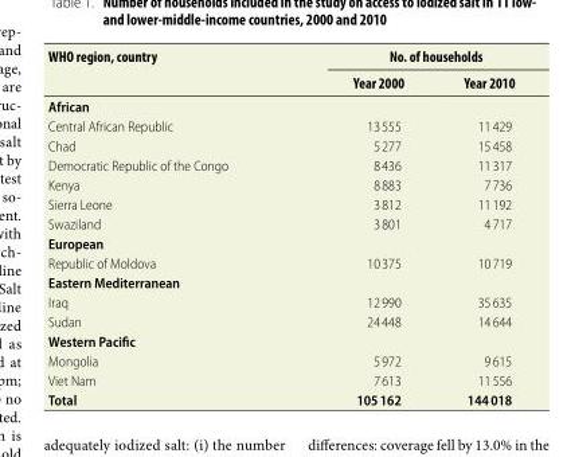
<table><thead><tr><td rowspan="2">WHO region, country</td><td colspan="2">No. of households</td></tr><tr><td>Year 2000</td><td>Year 2010</td></tr></thead><tbody><tr><td colspan="3">African</td></tr><tr><td>Central African Republic</td><td>13 555</td><td>11 429</td></tr><tr><td>Chad</td><td>5 277</td><td>15 458</td></tr><tr><td>Democratic Republic of the Congo</td><td>8 436</td><td>11 317</td></tr><tr><td>Kenya</td><td>8 883</td><td>7 736</td></tr><tr><td>Sierra Leone</td><td>3 812</td><td>11 192</td></tr><tr><td>Swaziland</td><td>3 801</td><td>4 717</td></tr><tr><td colspan="3">European</td></tr><tr><td>Republic of Moldova</td><td>10 375</td><td>10 719</td></tr><tr><td colspan="3">Eastern Mediterranean</td></tr><tr><td>Iraq</td><td>12 990</td><td>35 635</td></tr><tr><td>Sudan</td><td>24 448</td><td>14 644</td></tr><tr><td colspan="3">Western Pacific</td></tr><tr><td>Mongolia</td><td>5 972</td><td>9 615</td></tr><tr><td>Viet Nam</td><td>7 613</td><td>11 556</td></tr><tr><td>Total</td><td>105 162</td><td>144 018</td></tr></tbody></table>